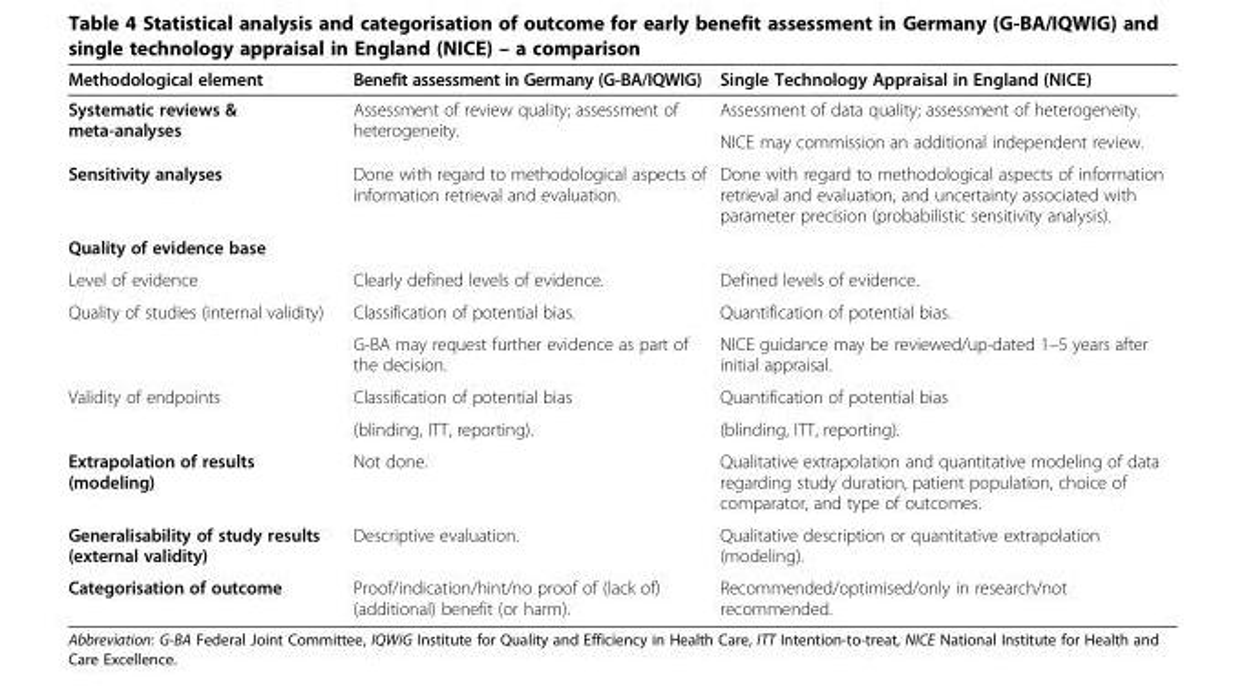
<table><thead><tr><td>Methodological element</td><td>Benefit assessment in Germany (G-BA/IQWIG)</td><td>Single Technology Appraisal in England (NICE)</td></tr></thead><tbody><tr><td rowspan="2">Systematic reviews &amp; meta-analyses</td><td rowspan="2">Assessment of review quality; assessment of heterogeneity.</td><td>Assessment of data quality; assessment of heterogeneity.</td></tr><tr><td>NICE may commission an additional independent review.</td></tr><tr><td>Sensitivity analyses</td><td>Done with regard to methodological aspects of information retrieval and evaluation.</td><td>Done with regard to methodological aspects of information retrieval and evaluation, and uncertainty associated with parameter precision (probabilistic sensitivity analysis).</td></tr><tr><td colspan="3">Quality of evidence base</td></tr><tr><td>Level of evidence</td><td>Clearly defined levels of evidence.</td><td>Defined levels of evidence.</td></tr><tr><td rowspan="2">Quality of studies (internal validity)</td><td>Classification of potential bias.</td><td>Quantification of potential bias.</td></tr><tr><td>G-BA may request further evidence as part of the decision.</td><td>NICE guidance may be reviewed/up-dated 1–5 years after initial appraisal.</td></tr><tr><td rowspan="2">Validity of endpoints</td><td>Classification of potential bias</td><td>Quantification of potential bias</td></tr><tr><td>(blinding, ITT, reporting).</td><td>(blinding, ITT, reporting).</td></tr><tr><td>Extrapolation of results (modeling)</td><td>Not done.</td><td>Qualitative extrapolation and quantitative modeling of data regarding study duration, patient population, choice of comparator, and type of outcomes.</td></tr><tr><td>Generalisability of study results (external validity)</td><td>Descriptive evaluation.</td><td>Qualitative description or quantitative extrapolation (modeling).</td></tr><tr><td>Categorisation of outcome</td><td>Proof/indication/hint/no proof of (lack of) (additional) benefit (or harm).</td><td>Recommended/optimised/only in research/not recommended.</td></tr></tbody></table>